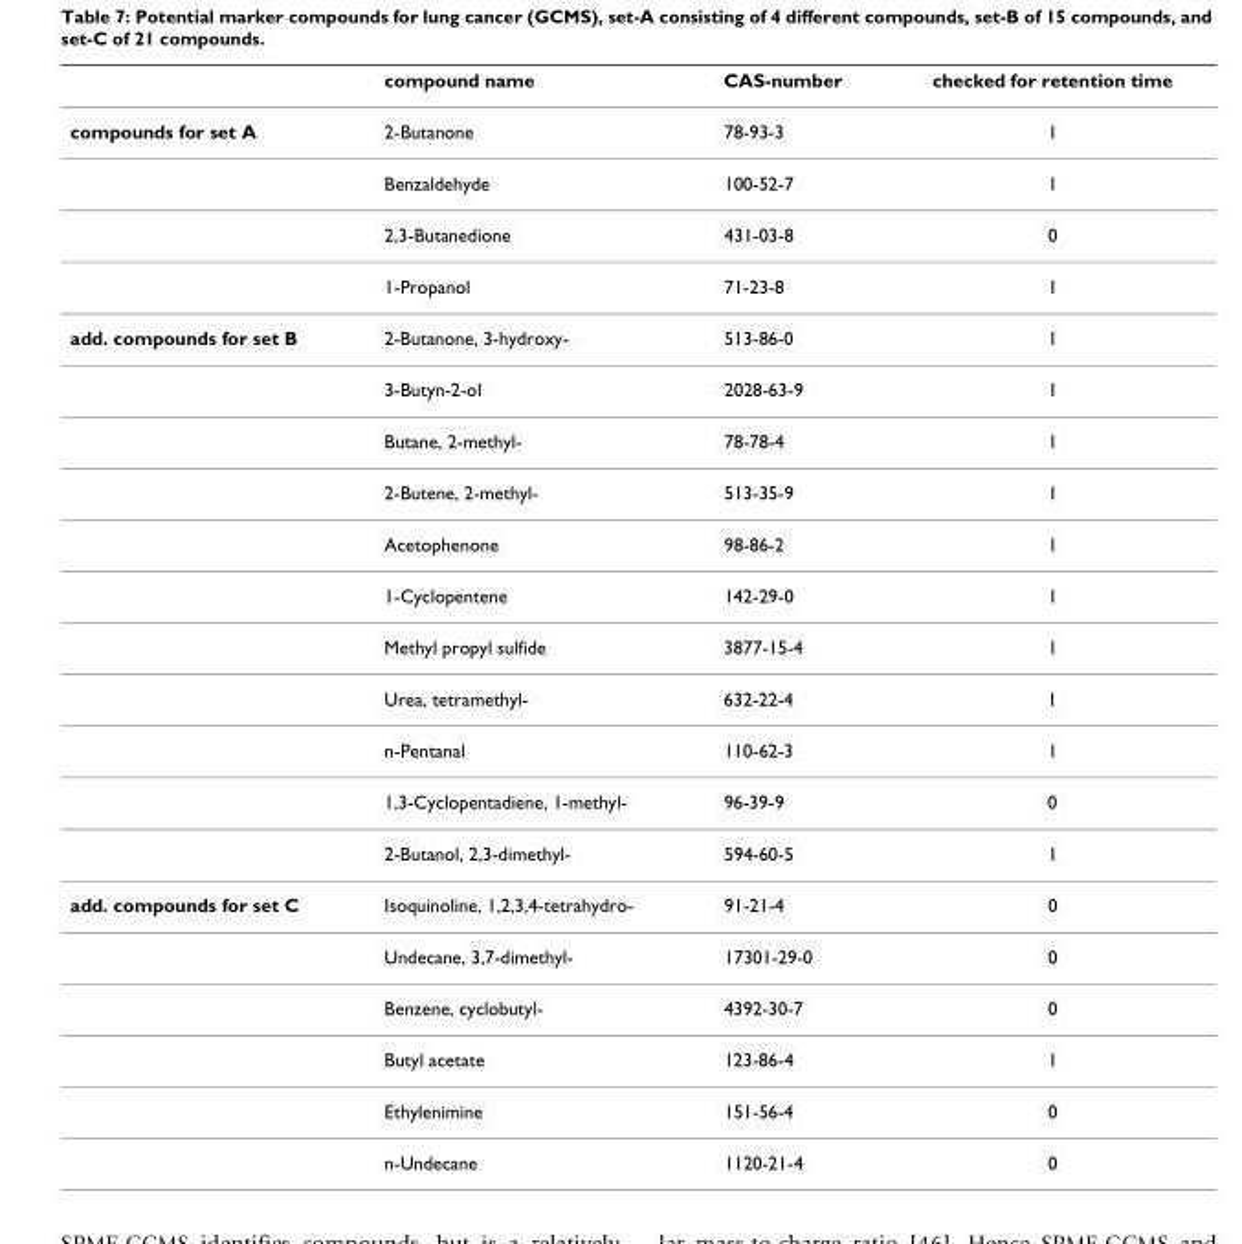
<table><thead><tr><td></td><td>compound name</td><td>CAS-number</td><td>checked for retention time</td></tr></thead><tbody><tr><td rowspan="4">compounds for set A</td><td>2-Butanone</td><td>78-93-3</td><td>1</td></tr><tr><td>Benzaldehyde</td><td>100-52-7</td><td>1</td></tr><tr><td>2,3-Butanedione</td><td>431-03-8</td><td>0</td></tr><tr><td>1-Propanol</td><td>71-23-8</td><td>1</td></tr><tr><td rowspan="11">add. compounds for set B</td><td>2-Butanone, 3-hydroxy-</td><td>513-86-0</td><td>1</td></tr><tr><td>3-Butyn-2-ol</td><td>2028-63-9</td><td>1</td></tr><tr><td>Butane, 2-methyl-</td><td>78-78-4</td><td>1</td></tr><tr><td>2-Butene, 2-methyl-</td><td>513-35-9</td><td>1</td></tr><tr><td>Acetophenone</td><td>98-86-2</td><td>1</td></tr><tr><td>1-Cyclopentene</td><td>142-29-0</td><td>1</td></tr><tr><td>Methyl propyl sulfide</td><td>3877-15-4</td><td>1</td></tr><tr><td>Urea, tetramethyl-</td><td>632-22-4</td><td>1</td></tr><tr><td>n-Pentanal</td><td>110-62-3</td><td>1</td></tr><tr><td>1,3-Cyclopentadiene, 1-methyl-</td><td>96-39-9</td><td>0</td></tr><tr><td>2-Butanol, 2,3-dimethyl-</td><td>594-60-5</td><td>1</td></tr><tr><td rowspan="6">add. compounds for set C</td><td>Isoquinoline, 1,2,3,4-tetrahydro-</td><td>91-21-4</td><td>0</td></tr><tr><td>Undecane, 3,7-dimethyl-</td><td>17301-29-0</td><td>0</td></tr><tr><td>Benzene, cyclobutyl-</td><td>4392-30-7</td><td>0</td></tr><tr><td>Butyl acetate</td><td>123-86-4</td><td>1</td></tr><tr><td>Ethylenimine</td><td>151-56-4</td><td>0</td></tr><tr><td>n-Undecane</td><td>1120-21-4</td><td>0</td></tr></tbody></table>